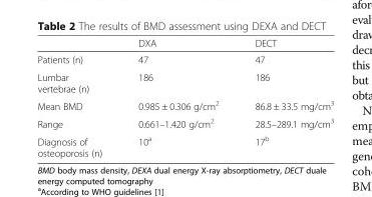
<table><thead><tr><td></td><td>DXA</td><td>DECT</td></tr></thead><tbody><tr><td>Patients (n)</td><td>47</td><td>47</td></tr><tr><td>Lumbar vertebrae (n)</td><td>186</td><td>186</td></tr><tr><td>Mean BMD</td><td>0.985 ± 0.306 g/cm<sup>2</sup></td><td>86.8 ± 33.5 mg/cm<sup>3</sup></td></tr><tr><td>Range</td><td>0.661–1.420 g/cm<sup>2</sup></td><td>28.5–289.1 mg/cm<sup>3</sup></td></tr><tr><td>Diagnosis of osteoporosis (n)</td><td>10<sup>a</sup></td><td>17<sup>b</sup></td></tr></tbody></table>